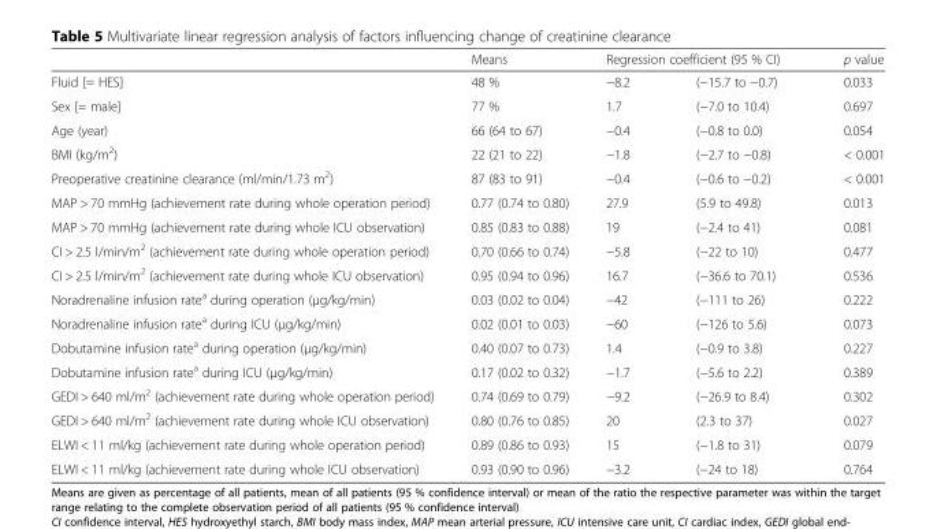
<table><thead><tr><td rowspan="2">Fluid [= HES]</td><td rowspan="2">Means 48 %</td><td colspan="2">Regression coefficient (95 % CI)</td><td rowspan="2">p value 0.033</td></tr><tr><td>−8.2</td><td>(−15.7 to −0.7)</td></tr></thead><tbody><tr><td>Sex [= male]</td><td>77 %</td><td>1.7</td><td>(−7.0 to 10.4)</td><td>0.697</td></tr><tr><td>Age (year)</td><td>66 (64 to 67)</td><td>−0.4</td><td>(−0.8 to 0.0)</td><td>0.054</td></tr><tr><td>BMI (kg/m<sup>2</sup>)</td><td>22 (21 to 22)</td><td>−1.8</td><td>(−2.7 to −0.8)</td><td>&lt; 0.001</td></tr><tr><td>Preoperative creatinine clearance (ml/min/1.73 m<sup>2</sup>)</td><td>87 (83 to 91)</td><td>−0.4</td><td>(−0.6 to −0.2)</td><td>&lt; 0.001</td></tr><tr><td>MAP &gt; 70 mmHg (achievement rate during whole operation period)</td><td>0.77 (0.74 to 0.80)</td><td>27.9</td><td>(5.9 to 49.8)</td><td>0.013</td></tr><tr><td>MAP &gt; 70 mmHg (achievement rate during whole ICU observation)</td><td>0.85 (0.83 to 0.88)</td><td>19</td><td>(−2.4 to 41)</td><td>0.081</td></tr><tr><td>CI &gt; 2.5 l/min/m<sup>2</sup> (achievement rate during whole operation period)</td><td>0.70 (0.66 to 0.74)</td><td>−5.8</td><td>(−22 to 10)</td><td>0.477</td></tr><tr><td>CI &gt; 2.5 l/min/m<sup>2</sup> (achievement rate during whole ICU observation)</td><td>0.95 (0.94 to 0.96)</td><td>16.7</td><td>(−36.6 to 70.1)</td><td>0.536</td></tr><tr><td>Noradrenaline infusion rate<sup>a</sup> during operation (μg/kg/min)</td><td>0.03 (0.02 to 0.04)</td><td>−42</td><td>(−111 to 26)</td><td>0.222</td></tr><tr><td>Noradrenaline infusion rate<sup>a</sup> during ICU (μg/kg/min)</td><td>0.02 (0.01 to 0.03)</td><td>−60</td><td>(−126 to 5.6)</td><td>0.073</td></tr><tr><td>Dobutamine infusion rate<sup>a</sup> during operation (μg/kg/min)</td><td>0.40 (0.07 to 0.73)</td><td>1.4</td><td>(−0.9 to 3.8)</td><td>0.227</td></tr><tr><td>Dobutamine infusion rate<sup>a</sup> during ICU (μg/kg/min)</td><td>0.17 (0.02 to 0.32)</td><td>−1.7</td><td>(−5.6 to 2.2)</td><td>0.389</td></tr><tr><td>GEDI &gt; 640 ml/m<sup>2</sup> (achievement rate during whole operation period)</td><td>0.74 (0.69 to 0.79)</td><td>−9.2</td><td>(−26.9 to 8.4)</td><td>0.302</td></tr><tr><td>GEDI &gt; 640 ml/m<sup>2</sup> (achievement rate during whole ICU observation)</td><td>0.80 (0.76 to 0.85)</td><td>20</td><td>(2.3 to 37)</td><td>0.027</td></tr><tr><td>ELWI &lt; 11 ml/kg (achievement rate during whole operation period)</td><td>0.89 (0.86 to 0.93)</td><td>15</td><td>(−1.8 to 31)</td><td>0.079</td></tr><tr><td>ELWI &lt; 11 ml/kg (achievement rate during whole ICU observation)</td><td>0.93 (0.90 to 0.96)</td><td>−3.2</td><td>(−24 to 18)</td><td>0.764</td></tr></tbody></table>